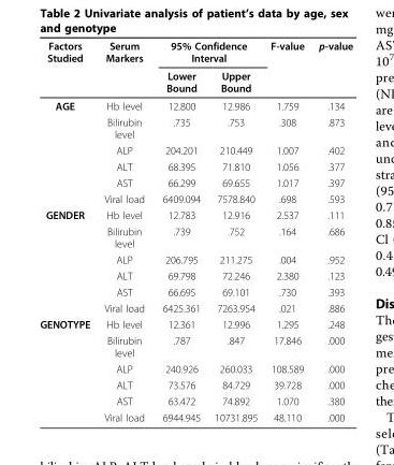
<table><thead><tr><td rowspan="2">Factors Studied</td><td rowspan="2">Serum Markers</td><td colspan="2">95% Confidence Interval</td><td rowspan="2">F-value</td><td rowspan="2">p-value</td></tr><tr><td>Lower Bound</td><td>Upper Bound</td></tr></thead><tbody><tr><td rowspan="6">AGE</td><td>Hb level</td><td>12.800</td><td>12.986</td><td>1.759</td><td>.134</td></tr><tr><td>Bilirubin level</td><td>.735</td><td>.753</td><td>.308</td><td>.873</td></tr><tr><td>ALP</td><td>204.201</td><td>210.449</td><td>1.007</td><td>.402</td></tr><tr><td>ALT</td><td>68.395</td><td>71.810</td><td>1.056</td><td>.377</td></tr><tr><td>AST</td><td>66.299</td><td>69.655</td><td>1.017</td><td>.397</td></tr><tr><td>Viral load</td><td>6409.094</td><td>7578.840</td><td>.698</td><td>.593</td></tr><tr><td rowspan="6">GENDER</td><td>Hb level</td><td>12.783</td><td>12.916</td><td>2.537</td><td>.111</td></tr><tr><td>Bilirubin level</td><td>.739</td><td>.752</td><td>.164</td><td>.686</td></tr><tr><td>ALP</td><td>206.795</td><td>211.275</td><td>.004</td><td>.952</td></tr><tr><td>ALT</td><td>69.798</td><td>72.246</td><td>2.380</td><td>.123</td></tr><tr><td>AST</td><td>66.695</td><td>69.101</td><td>.730</td><td>.393</td></tr><tr><td>Viral load</td><td>6425.361</td><td>7263.954</td><td>.021</td><td>.886</td></tr><tr><td rowspan="6">GENOTYPE</td><td>Hb level</td><td>12.361</td><td>12.996</td><td>1.295</td><td>.248</td></tr><tr><td>Bilirubin level</td><td>.787</td><td>.847</td><td>17.846</td><td>.000</td></tr><tr><td>ALP</td><td>240.926</td><td>260.033</td><td>108.589</td><td>.000</td></tr><tr><td>ALT</td><td>73.576</td><td>84.729</td><td>39.728</td><td>.000</td></tr><tr><td>AST</td><td>63.472</td><td>74.892</td><td>1.070</td><td>.380</td></tr><tr><td>Viral load</td><td>6944.945</td><td>10731.895</td><td>48.110</td><td>.000</td></tr></tbody></table>